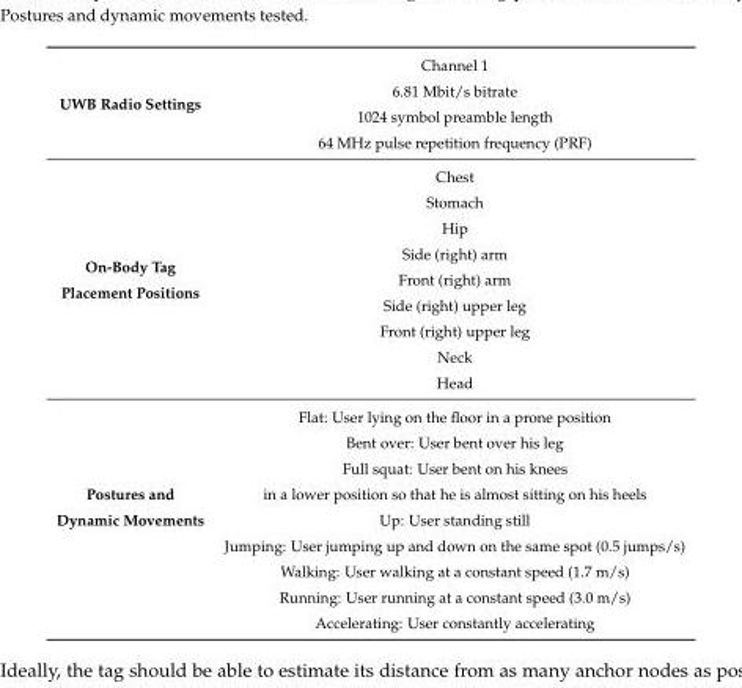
<table><tbody><tr><td rowspan="4">UWB Radio Settings</td><td>Channel 1</td></tr><tr><td>6.81 Mbit/s bitrate</td></tr><tr><td>1024 symbol preamble length</td></tr><tr><td>64 MHz pulse repetition frequency (PRF)</td></tr><tr><td rowspan="9">On-Body Tag Placement Positions</td><td>Chest</td></tr><tr><td>Stomach</td></tr><tr><td>Hip</td></tr><tr><td>Side (right) arm</td></tr><tr><td>Front (right) arm</td></tr><tr><td>Side (right) upper leg</td></tr><tr><td>Front (right) upper leg</td></tr><tr><td>Neck</td></tr><tr><td>Head</td></tr><tr><td rowspan="8">Postures and Dynamic Movements</td><td>Flat: User lying on the floor in a prone position</td></tr><tr><td>Bent over: User bent over his leg</td></tr><tr><td>Full squat: User bent on his knees in a lower position so that he is almost sitting on his heels</td></tr><tr><td>Up: User standing still</td></tr><tr><td>Jumping: User jumping up and down on the same spot (0.5 jumps/s)</td></tr><tr><td>Walking: User walking at a constant speed (1.7 m/s)</td></tr><tr><td>Running: User running at a constant speed (3.0 m/s)</td></tr><tr><td>Accelerating: User constantly accelerating</td></tr></tbody></table>